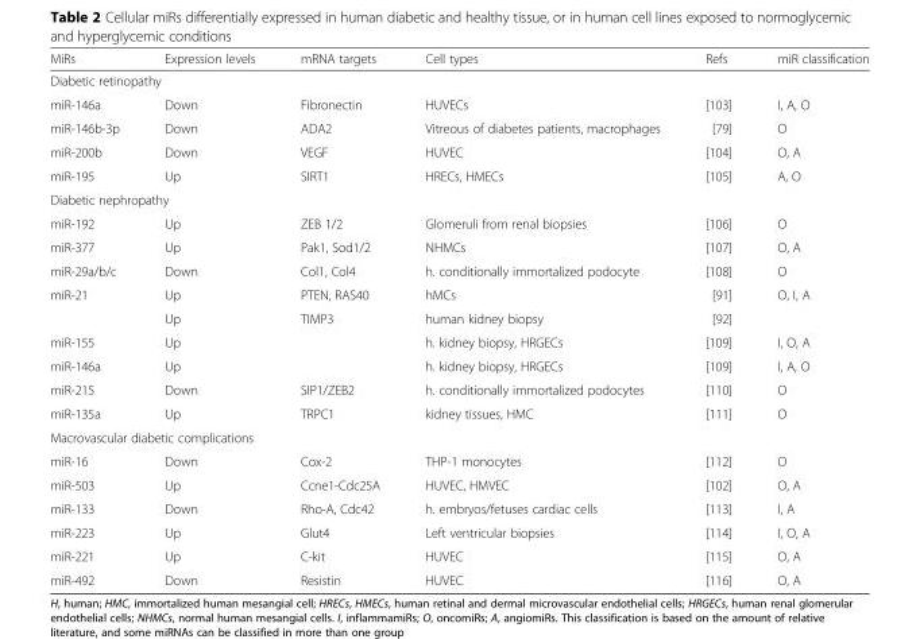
<table><thead><tr><td>MiRs</td><td>Expression levels</td><td>mRNA targets</td><td>Cell types</td><td>Refs</td><td>miR classification</td></tr></thead><tbody><tr><td colspan="6">Diabetic retinopathy</td></tr><tr><td>miR-146a</td><td>Down</td><td>Fibronectin</td><td>HUVECs</td><td>[103]</td><td>I, A, O</td></tr><tr><td>miR-146b-3p</td><td>Down</td><td>ADA2</td><td>Vitreous of diabetes patients, macrophages</td><td>[79]</td><td>O</td></tr><tr><td>miR-200b</td><td>Down</td><td>VEGF</td><td>HUVEC</td><td>[104]</td><td>O, A</td></tr><tr><td>miR-195</td><td>Up</td><td>SIRT1</td><td>HRECs, HMECs</td><td>[105]</td><td>A, O</td></tr><tr><td colspan="6">Diabetic nephropathy</td></tr><tr><td>miR-192</td><td>Up</td><td>ZEB 1/2</td><td>Glomeruli from renal biopsies</td><td>[106]</td><td>O</td></tr><tr><td>miR-377</td><td>Up</td><td>Pak1, Sod1/2</td><td>NHMCs</td><td>[107]</td><td>O, A</td></tr><tr><td>miR-29a/b/c</td><td>Down</td><td>Col1, Col4</td><td>h. conditionally immortalized podocyte</td><td>[108]</td><td>O</td></tr><tr><td rowspan="2">miR-21</td><td>Up</td><td>PTEN, RAS40</td><td>hMCs</td><td>[91]</td><td>O, I, A</td></tr><tr><td>Up</td><td>TIMP3</td><td>human kidney biopsy</td><td>[92]</td><td></td></tr><tr><td>miR-155</td><td>Up</td><td></td><td>h. kidney biopsy, HRGECs</td><td>[109]</td><td>I, O, A</td></tr><tr><td>miR-146a</td><td>Up</td><td></td><td>h. kidney biopsy, HRGECs</td><td>[109]</td><td>I, A, O</td></tr><tr><td>miR-215</td><td>Down</td><td>SIP1/ZEB2</td><td>h. conditionally immortalized podocytes</td><td>[110]</td><td>O</td></tr><tr><td>miR-135a</td><td>Up</td><td>TRPC1</td><td>kidney tissues, HMC</td><td>[111]</td><td>O</td></tr><tr><td colspan="6">Macrovascular diabetic complications</td></tr><tr><td>miR-16</td><td>Down</td><td>Cox-2</td><td>THP-1 monocytes</td><td>[112]</td><td>O</td></tr><tr><td>miR-503</td><td>Up</td><td>Ccne1-Cdc25A</td><td>HUVEC, HMVEC</td><td>[102]</td><td>O, A</td></tr><tr><td>miR-133</td><td>Down</td><td>Rho-A, Cdc42</td><td>h. embryos/fetuses cardiac cells</td><td>[113]</td><td>I, A</td></tr><tr><td>miR-223</td><td>Up</td><td>Glut4</td><td>Left ventricular biopsies</td><td>[114]</td><td>I, O, A</td></tr><tr><td>miR-221</td><td>Up</td><td>C-kit</td><td>HUVEC</td><td>[115]</td><td>O, A</td></tr><tr><td>miR-492</td><td>Down</td><td>Resistin</td><td>HUVEC</td><td>[116]</td><td>O, A</td></tr></tbody></table>